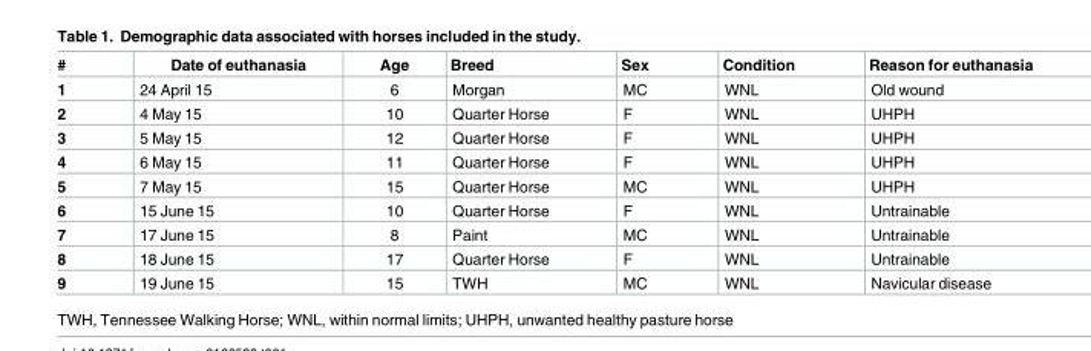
<table><thead><tr><td>#</td><td>Date of euthanasia</td><td>Age</td><td>Breed</td><td>Sex</td><td>Condition</td><td>Reason for euthanasia</td></tr></thead><tbody><tr><td>1</td><td>24 April 15</td><td>6</td><td>Morgan</td><td>MC</td><td>WNL</td><td>Old wound</td></tr><tr><td>2</td><td>4 May 15</td><td>10</td><td>Quarter Horse</td><td>F</td><td>WNL</td><td>UHPH</td></tr><tr><td>3</td><td>5 May 15</td><td>12</td><td>Quarter Horse</td><td>F</td><td>WNL</td><td>UHPH</td></tr><tr><td>4</td><td>6 May 15</td><td>11</td><td>Quarter Horse</td><td>F</td><td>WNL</td><td>UHPH</td></tr><tr><td>5</td><td>7 May 15</td><td>15</td><td>Quarter Horse</td><td>MC</td><td>WNL</td><td>UHPH</td></tr><tr><td>6</td><td>15 June 15</td><td>10</td><td>Quarter Horse</td><td>F</td><td>WNL</td><td>Untrainable</td></tr><tr><td>7</td><td>17 June 15</td><td>8</td><td>Paint</td><td>MC</td><td>WNL</td><td>Untrainable</td></tr><tr><td>8</td><td>18 June 15</td><td>17</td><td>Quarter Horse</td><td>F</td><td>WNL</td><td>Untrainable</td></tr><tr><td>9</td><td>19 June 15</td><td>15</td><td>TWH</td><td>MC</td><td>WNL</td><td>Navicular disease</td></tr></tbody></table>